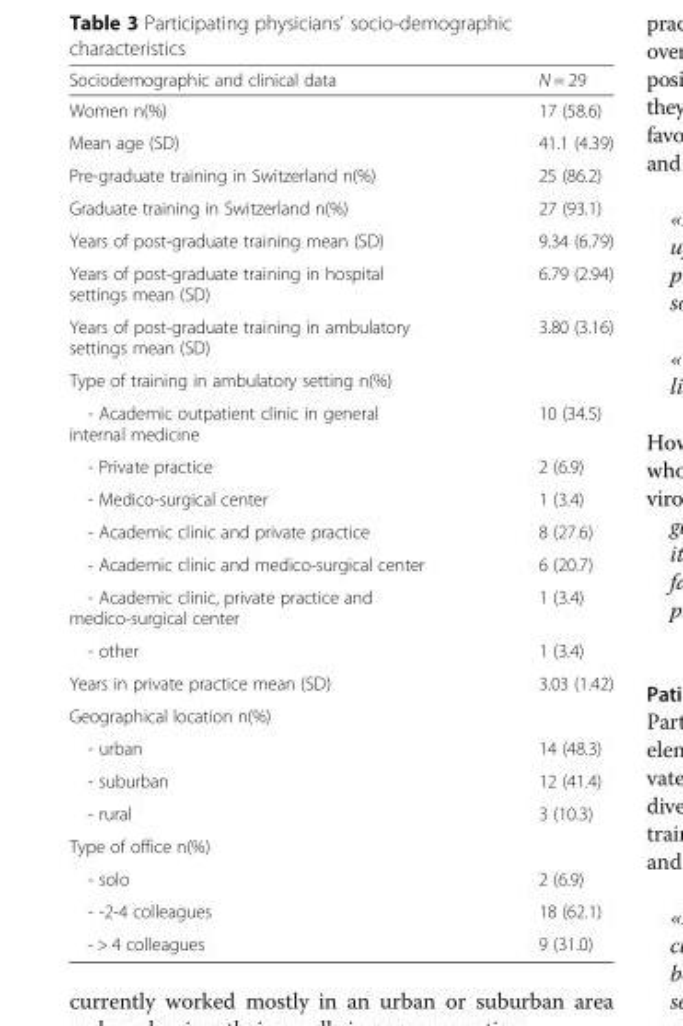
<table><thead><tr><td>Sociodemographic and clinical data</td><td>N = 29</td></tr></thead><tbody><tr><td>Women n(%)</td><td>17 (58.6)</td></tr><tr><td>Mean age (SD)</td><td>41.1 (4.39)</td></tr><tr><td>Pre-graduate training in Switzerland n(%)</td><td>25 (86.2)</td></tr><tr><td>Graduate training in Switzerland n(%)</td><td>27 (93.1)</td></tr><tr><td>Years of post-graduate training mean (SD)</td><td>9.34 (6.79)</td></tr><tr><td>Years of post-graduate training in hospital settings mean (SD)</td><td>6.79 (2.94)</td></tr><tr><td>Years of post-graduate training in ambulatory settings mean (SD)</td><td>3.80 (3.16)</td></tr><tr><td colspan="2">Type of training in ambulatory setting n(%)</td></tr><tr><td>- Academic outpatient clinic in general internal medicine</td><td>10 (34.5)</td></tr><tr><td>- Private practice</td><td>2 (6.9)</td></tr><tr><td>- Medico-surgical center</td><td>1 (3.4)</td></tr><tr><td>- Academic clinic and private practice</td><td>8 (27.6)</td></tr><tr><td>- Academic clinic and medico-surgical center</td><td>6 (20.7)</td></tr><tr><td>- Academic clinic, private practice and medico-surgical center</td><td>1 (3.4)</td></tr><tr><td>- other</td><td>1 (3.4)</td></tr><tr><td>Years in private practice mean (SD)</td><td>3.03 (1.42)</td></tr><tr><td colspan="2">Geographical location n(%)</td></tr><tr><td>- urban</td><td>14 (48.3)</td></tr><tr><td>- suburban</td><td>12 (41.4)</td></tr><tr><td>- rural</td><td>3 (10.3)</td></tr><tr><td colspan="2">Type of office n(%)</td></tr><tr><td>- solo</td><td>2 (6.9)</td></tr><tr><td>- -2-4 colleagues</td><td>18 (62.1)</td></tr><tr><td>- &gt; 4 colleagues</td><td>9 (31.0)</td></tr></tbody></table>